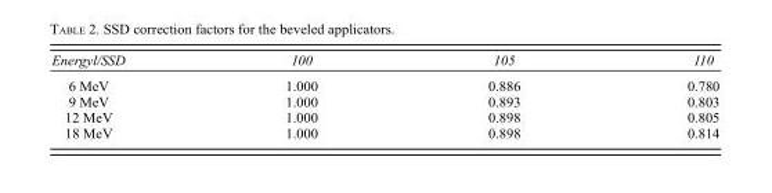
<table><thead><tr><td>Energyl/SSD</td><td>100</td><td>105</td><td>110</td></tr></thead><tbody><tr><td>6 MeV</td><td>1.000</td><td>0.886</td><td>0.780</td></tr><tr><td>9 MeV</td><td>1.000</td><td>0.893</td><td>0.803</td></tr><tr><td>12 MeV</td><td>1.000</td><td>0.898</td><td>0.805</td></tr><tr><td>18 MeV</td><td>1.000</td><td>0.898</td><td>0.814</td></tr></tbody></table>